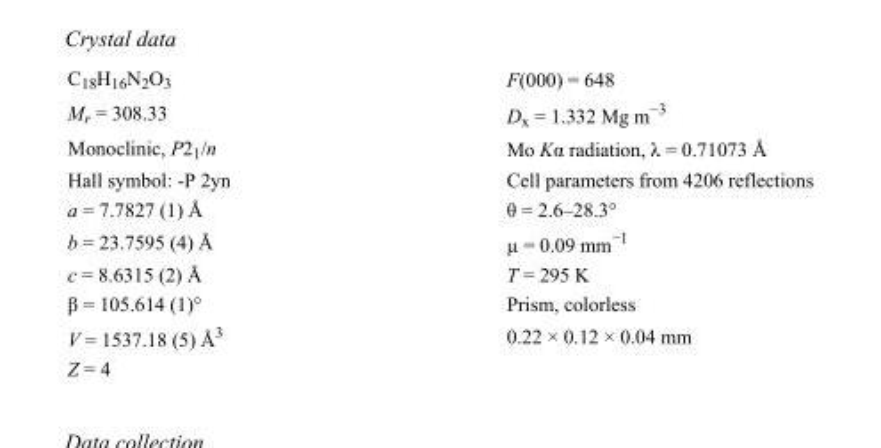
<table><tbody><tr><td>C<sub>18</sub>H<sub>16</sub>N<sub>2</sub>O<sub>3</sub></td><td>F(000) = 648</td></tr><tr><td>M<sub>r</sub> = 308.33</td><td>D<sub>x</sub> = 1.332 Mg m<sup>−3</sup></td></tr><tr><td>Monoclinic, P2<sub>1</sub>/n</td><td>Mo Kα radiation, λ = 0.71073 Å</td></tr><tr><td>Hall symbol: -P 2yn</td><td>Cell parameters from 4206 reflections</td></tr><tr><td>a = 7.7827 (1) Å</td><td>θ = 2.6–28.3°</td></tr><tr><td>b = 23.7595 (4) Å</td><td>µ = 0.09 mm<sup>−1</sup></td></tr><tr><td>c = 8.6315 (2) Å</td><td>T = 295 K</td></tr><tr><td>β = 105.614 (1)°</td><td>Prism, colorless</td></tr><tr><td>V = 1537.18 (5) Å<sup>3</sup></td><td>0.22 × 0.12 × 0.04 mm</td></tr><tr><td>Z = 4</td><td></td></tr></tbody></table>